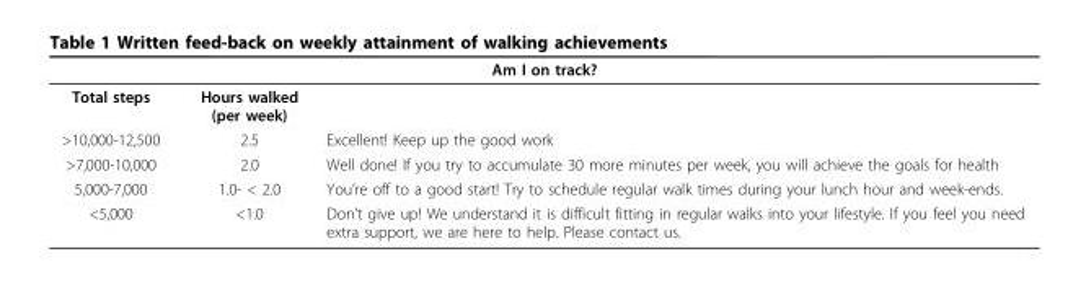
<table><thead><tr><td colspan="3">Am I on track?</td></tr><tr><td>Total steps</td><td>Hours walked (per week)</td><td></td></tr></thead><tbody><tr><td>&gt;10,000-12,500</td><td>2.5</td><td>Excellent! Keep up the good work</td></tr><tr><td>&gt;7,000-10,000</td><td>2.0</td><td>Well done! If you try to accumulate 30 more minutes per week, you will achieve the goals for health</td></tr><tr><td>5,000-7,000</td><td>1.0- &lt; 2.0</td><td>You’re off to a good start! Try to schedule regular walk times during your lunch hour and week-ends.</td></tr><tr><td>&lt;5,000</td><td>&lt;1.0</td><td>Don’t give up! We understand it is difficult fitting in regular walks into your lifestyle. If you feel you need extra support, we are here to help. Please contact us.</td></tr></tbody></table>